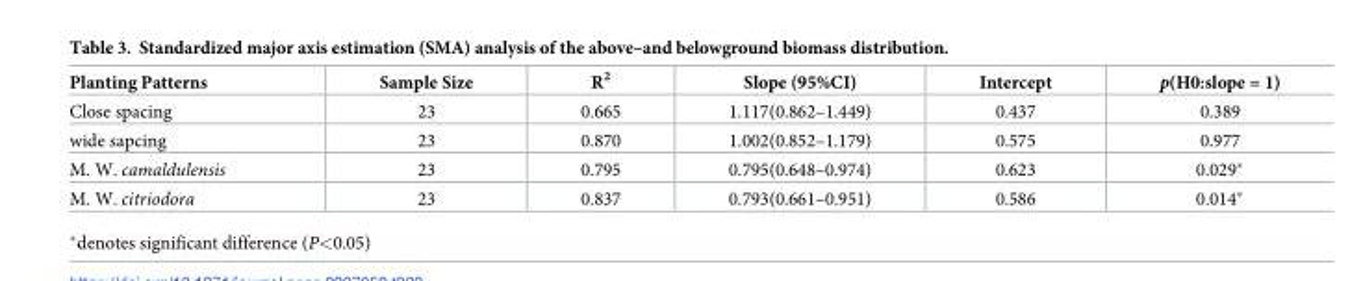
<table><thead><tr><td>Planting Patterns</td><td>Sample Size</td><td>R<sup>2</sup></td><td>Slope (95%CI)</td><td>Intercept</td><td>p(H0:slope = 1)</td></tr></thead><tbody><tr><td>Close spacing</td><td>23</td><td>0.665</td><td>1.117(0.862–1.449)</td><td>0.437</td><td>0.389</td></tr><tr><td>wide sapcing</td><td>23</td><td>0.870</td><td>1.002(0.852–1.179)</td><td>0.575</td><td>0.977</td></tr><tr><td>M. W. camaldulensis</td><td>23</td><td>0.795</td><td>0.795(0.648–0.974)</td><td>0.623</td><td>0.029*</td></tr><tr><td>M. W. citriodora</td><td>23</td><td>0.837</td><td>0.793(0.661–0.951)</td><td>0.586</td><td>0.014*</td></tr></tbody></table>